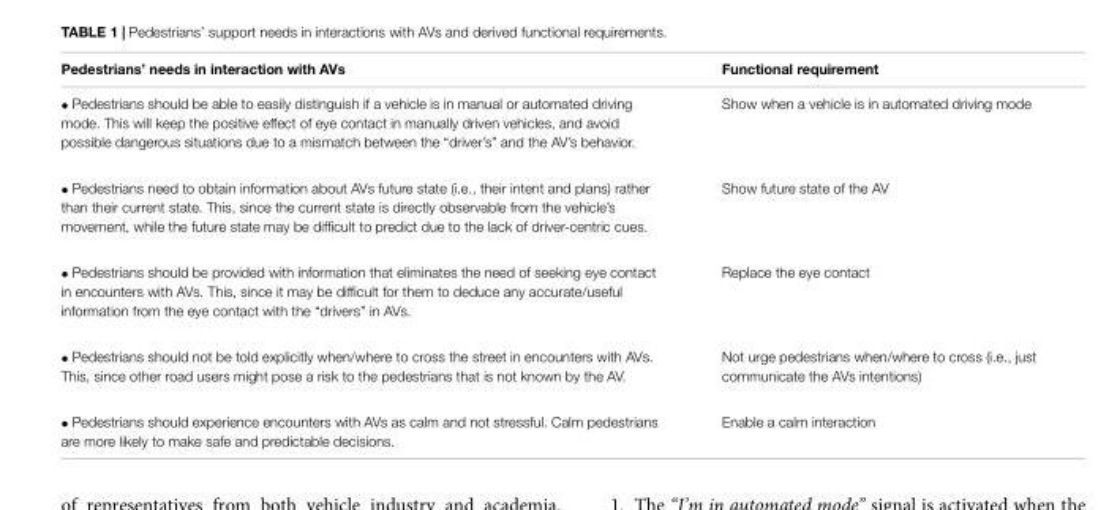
<table><thead><tr><td>Pedestrians’ needs in interaction with AVs</td><td>Functional requirement</td></tr></thead><tbody><tr><td>• Pedestrians should be able to easily distinguish if a vehicle is in manual or automated driving mode. This will keep the positive effect of eye contact in manually driven vehicles, and avoid possible dangerous situations due to a mismatch between the “driver’s” and the AV’s behavior.</td><td>Show when a vehicle is in automated driving mode</td></tr><tr><td>• Pedestrians need to obtain information about AVs future state (i.e., their intent and plans) rather than their current state. This, since the current state is directly observable from the vehicle’s movement, while the future state may be difficult to predict due to the lack of driver-centric cues.</td><td>Show future state of the AV</td></tr><tr><td>• Pedestrians should be provided with information that eliminates the need of seeking eye contact in encounters with AVs. This, since it may be difficult for them to deduce any accurate/useful information from the eye contact with the “drivers” in AVs.</td><td>Replace the eye contact</td></tr><tr><td>• Pedestrians should not be told explicitly when/where to cross the street in encounters with AVs. This, since other road users might pose a risk to the pedestrians that is not known by the AV.</td><td>Not urge pedestrians when/where to cross (i.e., just communicate the AVs intentions)</td></tr><tr><td>• Pedestrians should experience encounters with AVs as calm and not stressful. Calm pedestrians are more likely to make safe and predictable decisions.</td><td>Enable a calm interaction</td></tr></tbody></table>